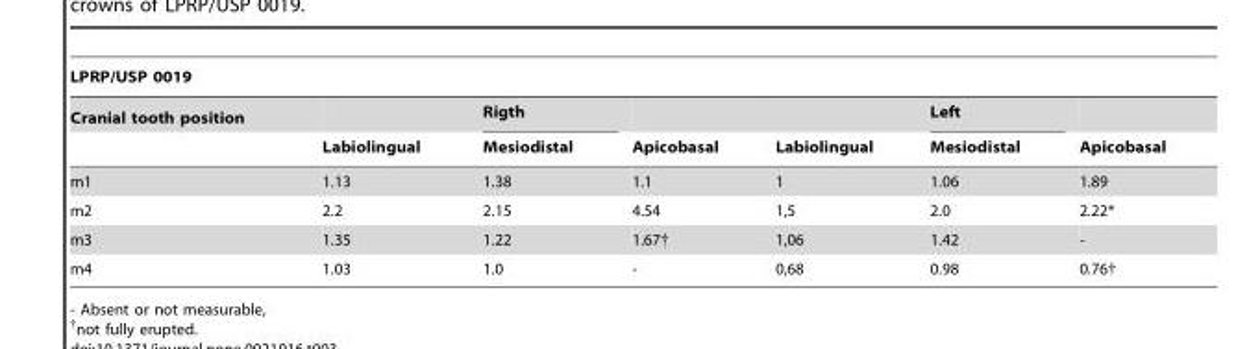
<table><thead><tr><td colspan="7">LPRP/USP 0019</td></tr><tr><td rowspan="2">Cranial tooth position</td><td rowspan="2">Labiolingual</td><td rowspan="2">Rigth Mesiodistal</td><td rowspan="2">Apicobasal</td><td rowspan="2">Labiolingual</td><td rowspan="2">Left Mesiodistal</td><td rowspan="2">Apicobasal</td></tr><tr></tr></thead><tbody><tr><td>m1</td><td>1.13</td><td>1.38</td><td>1.1</td><td>1</td><td>1.06</td><td>1.89</td></tr><tr><td>m2</td><td>2.2</td><td>2.15</td><td>4.54</td><td>1,5</td><td>2.0</td><td>2.22*</td></tr><tr><td>m3</td><td>1.35</td><td>1.22</td><td>1.67†</td><td>1,06</td><td>1.42</td><td>-</td></tr><tr><td>m4</td><td>1.03</td><td>1.0</td><td>-</td><td>0,68</td><td>0.98</td><td>0.76†</td></tr></tbody></table>